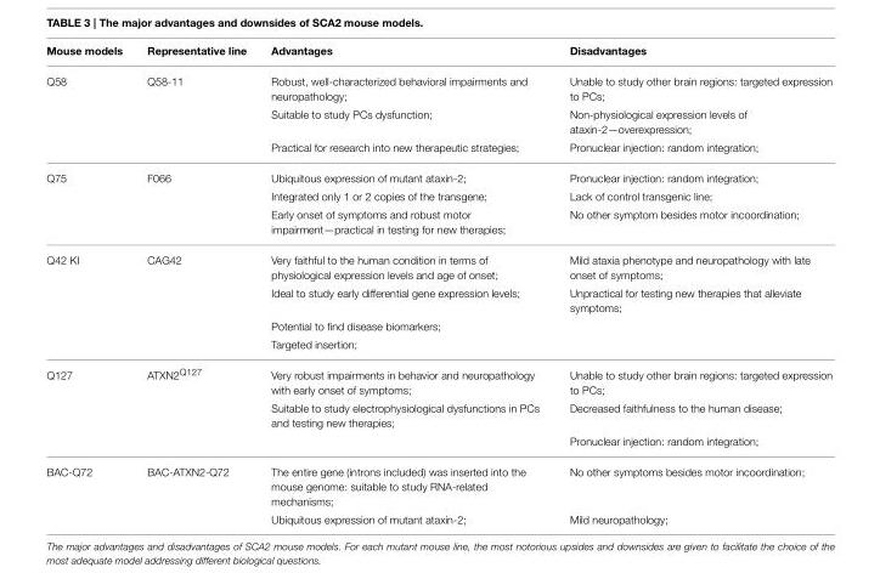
<table><thead><tr><td>Mouse models</td><td>Representative line</td><td>Advantages</td><td>Disadvantages</td></tr></thead><tbody><tr><td rowspan="3">Q58</td><td>Q58-11</td><td>Robust, well-characterized behavioral impairments and neuropathology;</td><td>Unable to study other brain regions: targeted expression to PCs;</td></tr><tr><td></td><td>Suitable to study PCs dysfunction;</td><td>Non-physiological expression levels of ataxin-2—overexpression;</td></tr><tr><td></td><td>Practical for research into new therapeutic strategies;</td><td>Pronuclear injection: random integration;</td></tr><tr><td rowspan="3">Q75</td><td>F066</td><td>Ubiquitous expression of mutant ataxin-2;</td><td>Pronuclear injection: random integration;</td></tr><tr><td></td><td>Integrated only 1 or 2 copies of the transgene;</td><td>Lack of control transgenic line;</td></tr><tr><td></td><td>Early onset of symptoms and robust motor impairment—practical in testing for new therapies;</td><td>No other symptom besides motor incoordination;</td></tr><tr><td rowspan="4">Q42 KI</td><td>CAG42</td><td>Very faithful to the human condition in terms of physiological expression levels and age of onset;</td><td>Mild ataxia phenotype and neuropathology with late onset of symptoms;</td></tr><tr><td></td><td>Ideal to study early differential gene expression levels;</td><td>Unpractical for testing new therapies that alleviate symptoms;</td></tr><tr><td></td><td>Potential to find disease biomarkers;</td><td></td></tr><tr><td></td><td>Targeted insertion;</td><td></td></tr><tr><td rowspan="3">Q127</td><td>ATXN2<sup>Q127</sup></td><td>Very robust impairments in behavior and neuropathology with early onset of symptoms;</td><td>Unable to study other brain regions: targeted expression to PCs;</td></tr><tr><td></td><td>Suitable to study electrophysiological dysfunctions in PCs and testing new therapies;</td><td>Decreased faithfulness to the human disease;</td></tr><tr><td></td><td></td><td>Pronuclear injection: random integration;</td></tr><tr><td rowspan="2">BAC-Q72</td><td>BAC-ATXN2-Q72</td><td>The entire gene (introns included) was inserted into the mouse genome: suitable to study RNA-related mechanisms;</td><td>No other symptoms besides motor incoordination;</td></tr><tr><td></td><td>Ubiquitous expression of mutant ataxin-2;</td><td>Mild neuropathology;</td></tr></tbody></table>